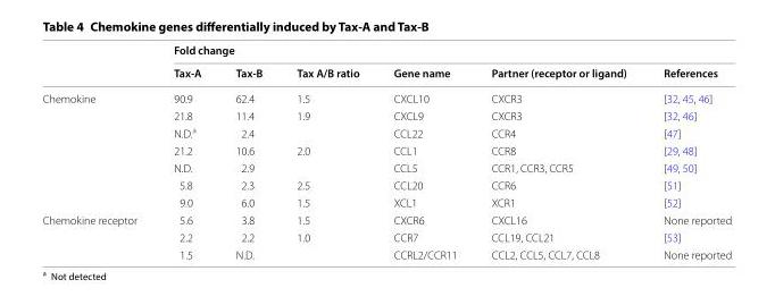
<table><thead><tr><td rowspan="2"></td><td colspan="6">Fold change</td></tr><tr><td>Tax‑A</td><td>Tax‑B</td><td>Tax A/B ratio</td><td>Gene name</td><td>Partner (receptor or ligand)</td><td>References</td></tr></thead><tbody><tr><td rowspan="7">Chemokine</td><td>90.9</td><td>62.4</td><td>1.5</td><td>CXCL10</td><td>CXCR3</td><td>[32, 45, 46]</td></tr><tr><td>21.8</td><td>11.4</td><td>1.9</td><td>CXCL9</td><td>CXCR3</td><td>[32, 46]</td></tr><tr><td>N.D.<sup>a</sup></td><td>2.4</td><td></td><td>CCL22</td><td>CCR4</td><td>[47]</td></tr><tr><td>21.2</td><td>10.6</td><td>2.0</td><td>CCL1</td><td>CCR8</td><td>[29, 48]</td></tr><tr><td>N.D.</td><td>2.9</td><td></td><td>CCL5</td><td>CCR1, CCR3, CCR5</td><td>[49, 50]</td></tr><tr><td>5.8</td><td>2.3</td><td>2.5</td><td>CCL20</td><td>CCR6</td><td>[51]</td></tr><tr><td>9.0</td><td>6.0</td><td>1.5</td><td>XCL1</td><td>XCR1</td><td>[52]</td></tr><tr><td rowspan="3">Chemokine receptor</td><td>5.6</td><td>3.8</td><td>1.5</td><td>CXCR6</td><td>CXCL16</td><td>None reported</td></tr><tr><td>2.2</td><td>2.2</td><td>1.0</td><td>CCR7</td><td>CCL19, CCL21</td><td>[53]</td></tr><tr><td>1.5</td><td>N.D.</td><td></td><td>CCRL2/CCR11</td><td>CCL2, CCL5, CCL7, CCL8</td><td>None reported</td></tr></tbody></table>